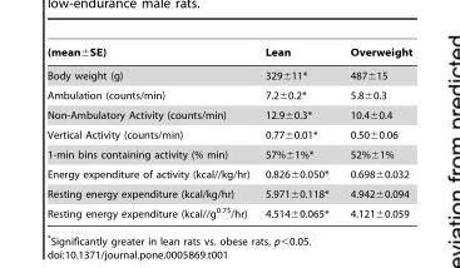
<table><thead><tr><td>(mean±SE)</td><td>Lean</td><td>Overweight</td></tr></thead><tbody><tr><td>Body weight (g)</td><td>329±11*</td><td>487±15</td></tr><tr><td>Ambulation (counts/min)</td><td>7.2±0.2*</td><td>5.8±0.3</td></tr><tr><td>Non-Ambulatory Activity (counts/min)</td><td>12.9±0.3*</td><td>10.4±0.4</td></tr><tr><td>Vertical Activity (counts/min)</td><td>0.77±0.01*</td><td>0.50±0.06</td></tr><tr><td>1-min bins containing activity (% min)</td><td>57%±1%*</td><td>52%±1%</td></tr><tr><td>Energy expenditure of activity (kcal//kg/hr)</td><td>0.826±0.050*</td><td>0.698±0.032</td></tr><tr><td>Resting energy expenditure (kcal/kg/hr)</td><td>5.971±0.118*</td><td>4.942±0.094</td></tr><tr><td>Resting energy expenditure (kcal//g<sup>0.75</sup>/hr)</td><td>4.514±0.065*</td><td>4.121±0.059</td></tr></tbody></table>